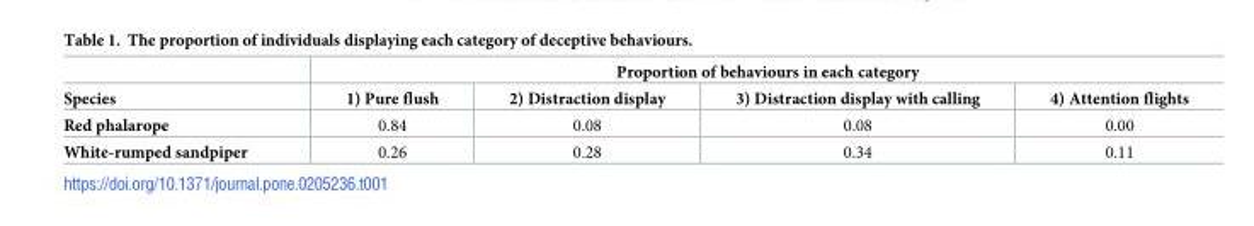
<table><thead><tr><td rowspan="2">Species</td><td colspan="4">Proportion of behaviours in each category</td></tr><tr><td>1) Pure flush</td><td>2) Distraction display</td><td>3) Distraction display with calling</td><td>4) Attention flights</td></tr></thead><tbody><tr><td>Red phalarope</td><td>0.84</td><td>0.08</td><td>0.08</td><td>0.00</td></tr><tr><td>White-rumped sandpiper</td><td>0.26</td><td>0.28</td><td>0.34</td><td>0.11</td></tr></tbody></table>